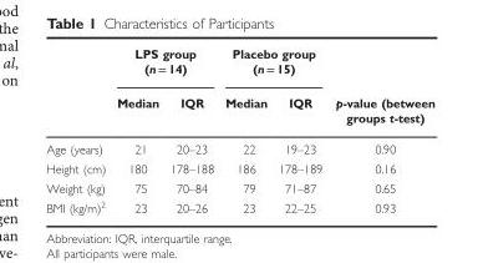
<table><thead><tr><td rowspan="2"></td><td colspan="2">LPS group (n = 14)</td><td colspan="2">Placebo group (n = 15)</td><td rowspan="2">p-value (between groups t-test)</td></tr><tr><td>Median</td><td>IQR</td><td>Median</td><td>IQR</td></tr></thead><tbody><tr><td>Age (years)</td><td>21</td><td>20–23</td><td>22</td><td>19–23</td><td>0.90</td></tr><tr><td>Height (cm)</td><td>180</td><td>178–188</td><td>186</td><td>178–189</td><td>0.16</td></tr><tr><td>Weight (kg)</td><td>75</td><td>70–84</td><td>79</td><td>71–87</td><td>0.65</td></tr><tr><td>BMI (kg/m)<sup>2</sup></td><td>23</td><td>20–26</td><td>23</td><td>22–25</td><td>0.93</td></tr></tbody></table>